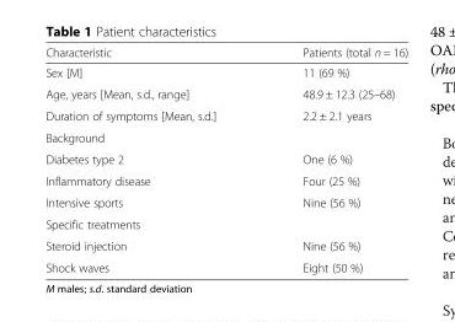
<table><thead><tr><td>Characteristic</td><td>Patients (total n = 16)</td></tr></thead><tbody><tr><td>Sex [M]</td><td>11 (69 %)</td></tr><tr><td>Age, years [Mean, s.d., range]</td><td>48.9 ± 12.3 (25–68)</td></tr><tr><td>Duration of symptoms [Mean, s.d.]</td><td>2.2 ± 2.1 years</td></tr><tr><td colspan="2">Background</td></tr><tr><td>Diabetes type 2</td><td>One (6 %)</td></tr><tr><td>Inflammatory disease</td><td>Four (25 %)</td></tr><tr><td>Intensive sports</td><td>Nine (56 %)</td></tr><tr><td colspan="2">Specific treatments</td></tr><tr><td>Steroid injection</td><td>Nine (56 %)</td></tr><tr><td>Shock waves</td><td>Eight (50 %)</td></tr></tbody></table>